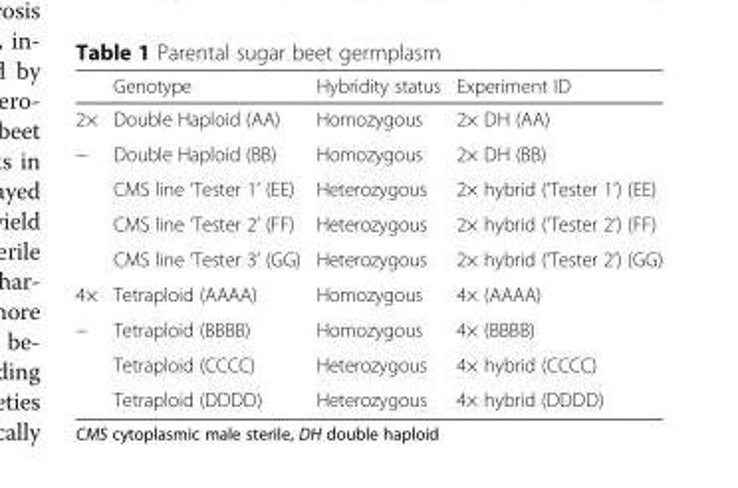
<table><thead><tr><td></td><td>Genotype</td><td>Hybridity status</td><td>Experiment ID</td></tr></thead><tbody><tr><td>2×</td><td>Double Haploid (AA)</td><td>Homozygous</td><td>2× DH (AA)</td></tr><tr><td rowspan="4">−</td><td>Double Haploid (BB)</td><td>Homozygous</td><td>2× DH (BB)</td></tr><tr><td>CMS line ‘Tester 1’ (EE)</td><td>Heterozygous</td><td>2× hybrid (‘Tester 1’) (EE)</td></tr><tr><td>CMS line ‘Tester 2’ (FF)</td><td>Heterozygous</td><td>2× hybrid (‘Tester 2’) (FF)</td></tr><tr><td>CMS line ‘Tester 3’ (GG)</td><td>Heterozygous</td><td>2× hybrid (‘Tester 2’) (GG)</td></tr><tr><td>4×</td><td>Tetraploid (AAAA)</td><td>Homozygous</td><td>4× (AAAA)</td></tr><tr><td rowspan="3">−</td><td>Tetraploid (BBBB)</td><td>Homozygous</td><td>4× (BBBB)</td></tr><tr><td>Tetraploid (CCCC)</td><td>Heterozygous</td><td>4× hybrid (CCCC)</td></tr><tr><td>Tetraploid (DDDD)</td><td>Heterozygous</td><td>4× hybrid (DDDD)</td></tr></tbody></table>